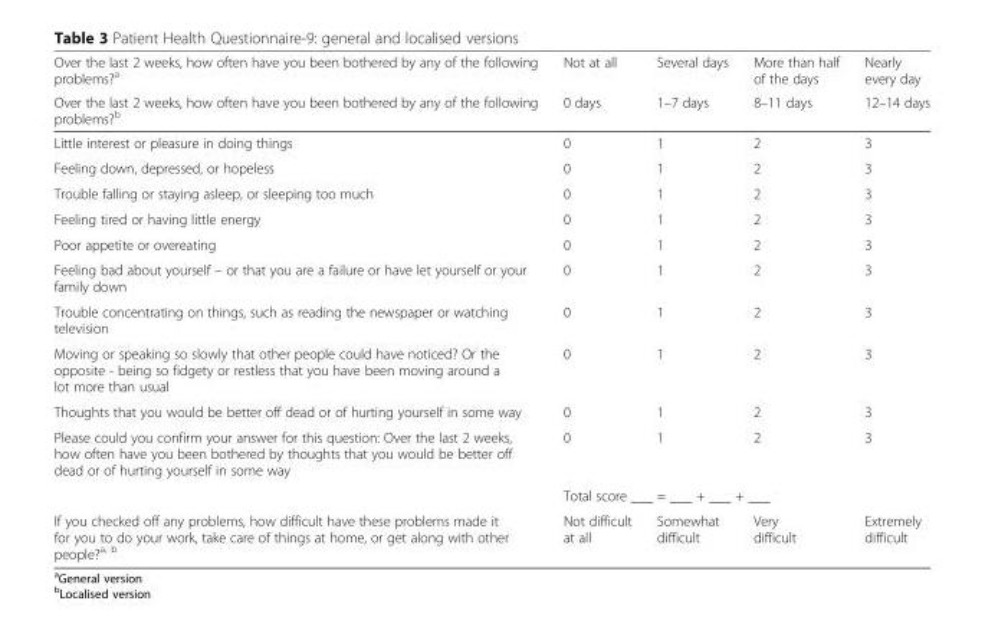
<table><thead><tr><td rowspan="2">Over the last 2 weeks, how often have you been bothered by any of the following problems?<sup>a</sup> Over the last 2 weeks, how often have you been bothered by any of the following problems?<sup>b</sup></td><td rowspan="2">Not at all 0 days</td><td rowspan="2">Several days 1–7 days</td><td rowspan="2">More than half of the days 8–11 days</td><td rowspan="2">Nearly every day 12–14 days</td></tr><tr></tr></thead><tbody><tr><td>Little interest or pleasure in doing things</td><td>0</td><td>1</td><td>2</td><td>3</td></tr><tr><td>Feeling down, depressed, or hopeless</td><td>0</td><td>1</td><td>2</td><td>3</td></tr><tr><td>Trouble falling or staying asleep, or sleeping too much</td><td>0</td><td>1</td><td>2</td><td>3</td></tr><tr><td>Feeling tired or having little energy</td><td>0</td><td>1</td><td>2</td><td>3</td></tr><tr><td>Poor appetite or overeating</td><td>0</td><td>1</td><td>2</td><td>3</td></tr><tr><td>Feeling bad about yourself – or that you are a failure or have let yourself or your family down</td><td>0</td><td>1</td><td>2</td><td>3</td></tr><tr><td>Trouble concentrating on things, such as reading the newspaper or watching television</td><td>0</td><td>1</td><td>2</td><td>3</td></tr><tr><td>Moving or speaking so slowly that other people could have noticed? Or the opposite - being so fidgety or restless that you have been moving around a lot more than usual</td><td>0</td><td>1</td><td>2</td><td>3</td></tr><tr><td>Thoughts that you would be better off dead or of hurting yourself in some way</td><td>0</td><td>1</td><td>2</td><td>3</td></tr><tr><td rowspan="2">Please could you confirm your answer for this question: Over the last 2 weeks, how often have you been bothered by thoughts that you would be better off dead or of hurting yourself in some way</td><td>0</td><td>1</td><td>2</td><td>3</td></tr><tr><td colspan="4">Total score ___ = ___ + ___ + ___</td></tr><tr><td>If you checked off any problems, how difficult have these problems made it for you to do your work, take care of things at home, or get along with other people?<sup>a, b</sup></td><td>Not difficult at all</td><td>Somewhat difficult</td><td>Very difficult</td><td>Extremely difficult</td></tr></tbody></table>